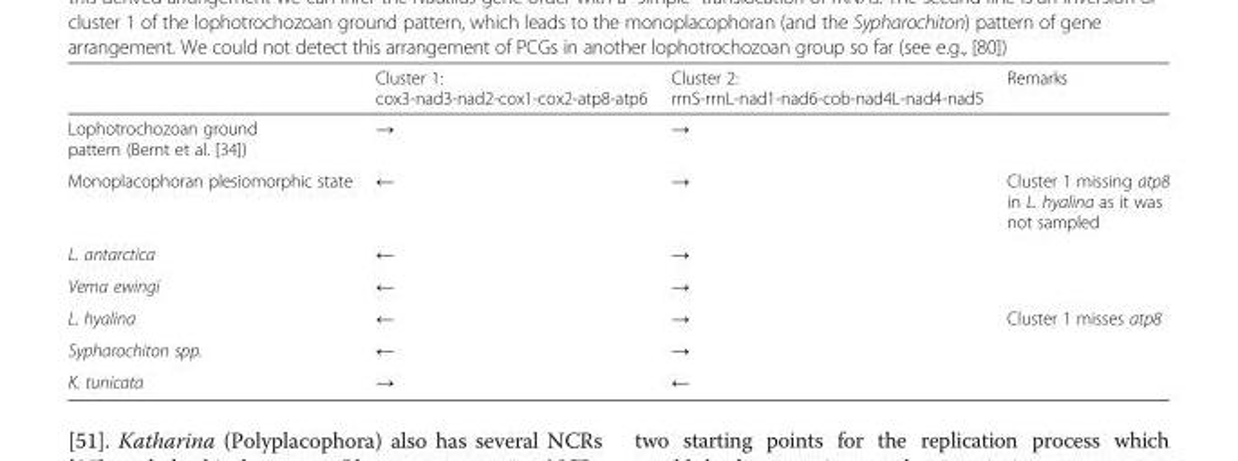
<table><thead><tr><td></td><td>Cluster 1: cox3-nad3-nad2-cox1-cox2-atp8-atp6</td><td>Cluster 2: rrnS-rrnL-nad1-nad6-cob-nad4L-nad4-nad5</td><td>Remarks</td></tr></thead><tbody><tr><td>Lophotrochozoan ground pattern (Bernt et al. [34])</td><td>→</td><td>→</td><td></td></tr><tr><td>Monoplacophoran plesiomorphic state</td><td>←</td><td>→</td><td>Cluster 1 missing atp8 in L. hyalina as it was not sampled</td></tr><tr><td>L. antarctica</td><td>←</td><td>→</td><td></td></tr><tr><td>Vema ewingi</td><td>←</td><td>→</td><td></td></tr><tr><td>L. hyalina</td><td>←</td><td>→</td><td>Cluster 1 misses atp8</td></tr><tr><td>Sypharochiton spp.</td><td>←</td><td>→</td><td></td></tr><tr><td>K. tunicata</td><td>→</td><td>←</td><td></td></tr></tbody></table>